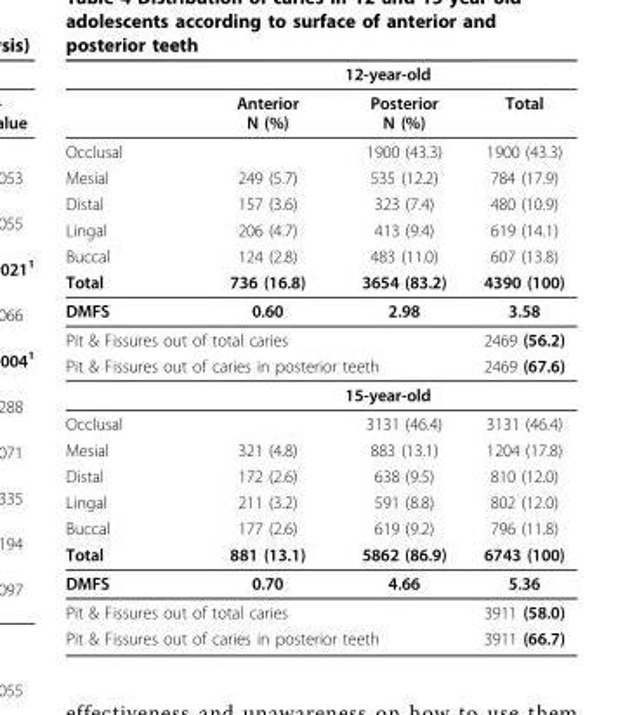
<table><thead><tr><td rowspan="2"></td><td colspan="3">12-year-old</td></tr><tr><td>Anterior N (%)</td><td>Posterior N (%)</td><td>Total</td></tr></thead><tbody><tr><td>Occlusal</td><td></td><td>1900 (43.3)</td><td>1900 (43.3)</td></tr><tr><td>Mesial</td><td>249 (5.7)</td><td>535 (12.2)</td><td>784 (17.9)</td></tr><tr><td>Distal</td><td>157 (3.6)</td><td>323 (7.4)</td><td>480 (10.9)</td></tr><tr><td>Lingal</td><td>206 (4.7)</td><td>413 (9.4)</td><td>619 (14.1)</td></tr><tr><td>Buccal</td><td>124 (2.8)</td><td>483 (11.0)</td><td>607 (13.8)</td></tr><tr><td>Total</td><td>736 (16.8)</td><td>3654 (83.2)</td><td>4390 (100)</td></tr><tr><td>DMFS</td><td>0.60</td><td>2.98</td><td>3.58</td></tr><tr><td colspan="2">Pit &amp; Fissures out of total caries</td><td></td><td>2469 (56.2)</td></tr><tr><td colspan="3">Pit &amp; Fissures out of caries in posterior teeth</td><td>2469 (67.6)</td></tr><tr><td></td><td colspan="3">15-year-old</td></tr><tr><td>Occlusal</td><td></td><td>3131 (46.4)</td><td>3131 (46.4)</td></tr><tr><td>Mesial</td><td>321 (4.8)</td><td>883 (13.1)</td><td>1204 (17.8)</td></tr><tr><td>Distal</td><td>172 (2.6)</td><td>638 (9.5)</td><td>810 (12.0)</td></tr><tr><td>Lingal</td><td>211 (3.2)</td><td>591 (8.8)</td><td>802 (12.0)</td></tr><tr><td>Buccal</td><td>177 (2.6)</td><td>619 (9.2)</td><td>796 (11.8)</td></tr><tr><td>Total</td><td>881 (13.1)</td><td>5862 (86.9)</td><td>6743 (100)</td></tr><tr><td>DMFS</td><td>0.70</td><td>4.66</td><td>5.36</td></tr><tr><td colspan="2">Pit &amp; Fissures out of total caries</td><td></td><td>3911 (58.0)</td></tr><tr><td colspan="3">Pit &amp; Fissures out of caries in posterior teeth</td><td>3911 (66.7)</td></tr></tbody></table>